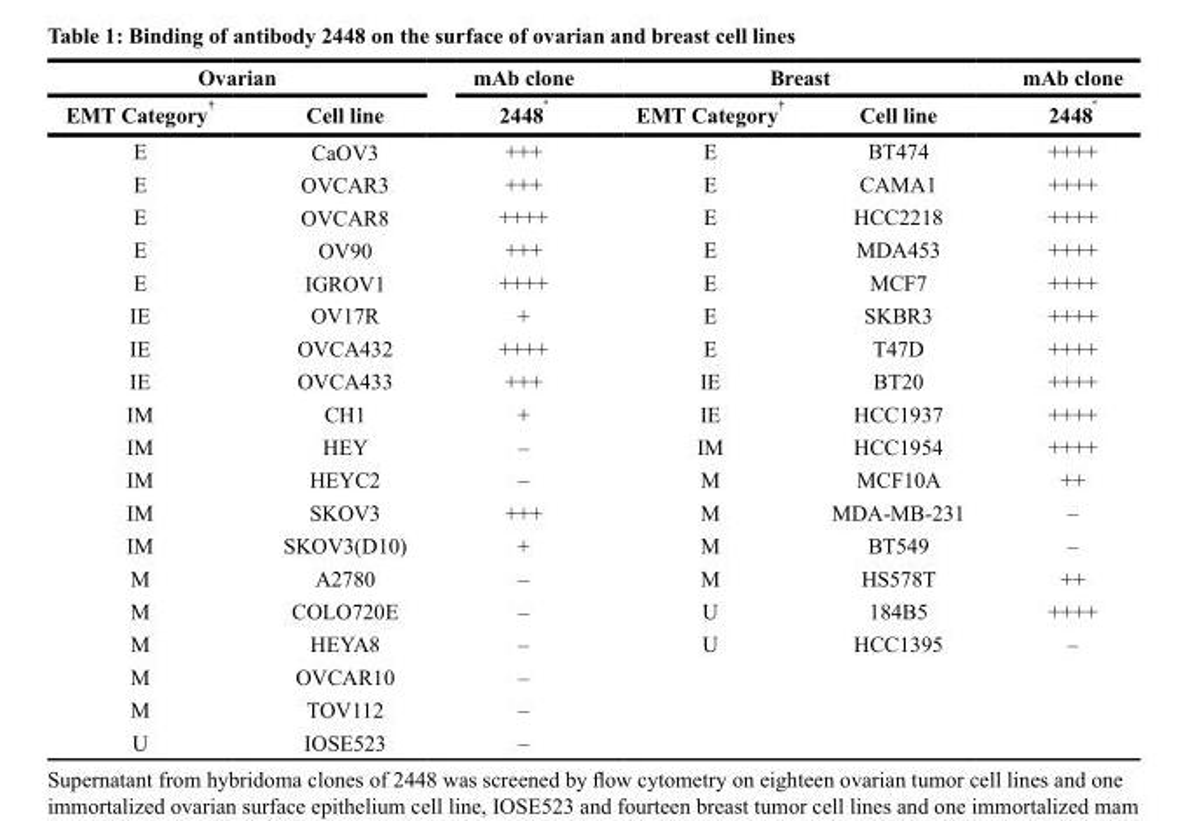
<table><thead><tr><td colspan="2">Ovarian</td><td rowspan="2">mAb clone 2448 <sup>º</sup></td><td colspan="2">Breast</td><td rowspan="2">mAb clone 2448 <sup>º</sup></td></tr><tr><td>EMT Category <sup>†</sup></td><td>Cell line</td><td>EMT Category <sup>†</sup></td><td>Cell line</td></tr></thead><tbody><tr><td>E</td><td>CaOV3</td><td>+++</td><td>E</td><td>BT474</td><td>++++</td></tr><tr><td>E</td><td>OVCAR3</td><td>+++</td><td>E</td><td>CAMA1</td><td>++++</td></tr><tr><td>E</td><td>OVCAR8</td><td>++++</td><td>E</td><td>HCC2218</td><td>++++</td></tr><tr><td>E</td><td>OV90</td><td>+++</td><td>E</td><td>MDA453</td><td>++++</td></tr><tr><td>E</td><td>IGROV1</td><td>++++</td><td>E</td><td>MCF7</td><td>++++</td></tr><tr><td>IE</td><td>OV17R</td><td>+</td><td>E</td><td>SKBR3</td><td>++++</td></tr><tr><td>IE</td><td>OVCA432</td><td>++++</td><td>E</td><td>T47D</td><td>++++</td></tr><tr><td>IE</td><td>OVCA433</td><td>+++</td><td>IE</td><td>BT20</td><td>++++</td></tr><tr><td>IM</td><td>CH1</td><td>+</td><td>IE</td><td>HCC1937</td><td>++++</td></tr><tr><td>IM</td><td>HEY</td><td>–</td><td>IM</td><td>HCC1954</td><td>++++</td></tr><tr><td>IM</td><td>HEYC2</td><td>–</td><td>M</td><td>MCF10A</td><td>++</td></tr><tr><td>IM</td><td>SKOV3</td><td>+++</td><td>M</td><td>MDA-MB-231</td><td>–</td></tr><tr><td>IM</td><td>SKOV3(D10)</td><td>+</td><td>M</td><td>BT549</td><td>–</td></tr><tr><td>M</td><td>A2780</td><td>–</td><td>M</td><td>HS578T</td><td>++</td></tr><tr><td>M</td><td>COLO720E</td><td>–</td><td>U</td><td>184B5</td><td>++++</td></tr><tr><td>M</td><td>HEYA8</td><td>–</td><td>U</td><td>HCC1395</td><td>–</td></tr><tr><td>M</td><td>OVCAR10</td><td>–</td><td></td><td></td><td></td></tr><tr><td>M</td><td>TOV112</td><td>–</td><td></td><td></td><td></td></tr><tr><td>U</td><td>IOSE523</td><td>–</td><td></td><td></td><td></td></tr></tbody></table>